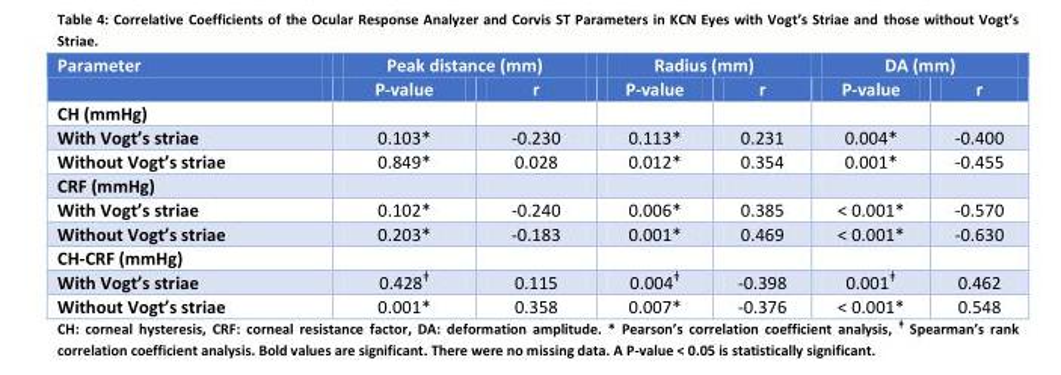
<table><thead><tr><td rowspan="2">Parameter</td><td colspan="2">Peak distance (mm)</td><td colspan="2">Radius (mm)</td><td colspan="2">DA (mm)</td></tr><tr><td>P-value</td><td>r</td><td>P-value</td><td>r</td><td>P-value</td><td>r</td></tr></thead><tbody><tr><td colspan="7">CH (mmHg)</td></tr><tr><td>With Vogt’s striae</td><td>0.103*</td><td>-0.230</td><td>0.113*</td><td>0.231</td><td>0.004*</td><td>-0.400</td></tr><tr><td>Without Vogt’s striae</td><td>0.849*</td><td>0.028</td><td>0.012*</td><td>0.354</td><td>0.001*</td><td>-0.455</td></tr><tr><td colspan="7">CRF (mmHg)</td></tr><tr><td>With Vogt’s striae</td><td>0.102*</td><td>-0.240</td><td>0.006*</td><td>0.385</td><td>&lt; 0.001*</td><td>-0.570</td></tr><tr><td>Without Vogt’s striae</td><td>0.203*</td><td>-0.183</td><td>0.001*</td><td>0.469</td><td>&lt; 0.001*</td><td>-0.630</td></tr><tr><td colspan="7">CH-CRF (mmHg)</td></tr><tr><td>With Vogt’s striae</td><td>0.428<sup>ǂ</sup></td><td>0.115</td><td>0.004<sup>ǂ</sup></td><td>-0.398</td><td>0.001<sup>ǂ</sup></td><td>0.462</td></tr><tr><td>Without Vogt’s striae</td><td>0.001*</td><td>0.358</td><td>0.007*</td><td>-0.376</td><td>&lt; 0.001*</td><td>0.548</td></tr></tbody></table>